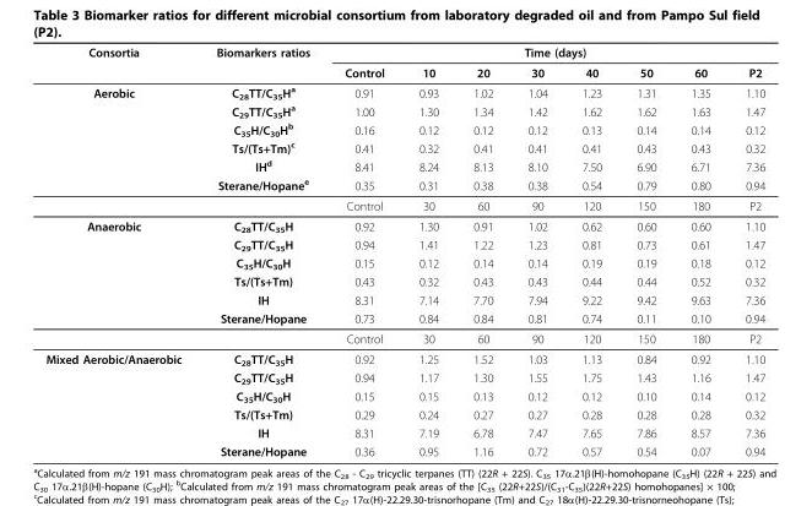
<table><thead><tr><td rowspan="2">Consortia</td><td rowspan="2">Biomarkers ratios</td><td colspan="8">Time (days)</td></tr><tr><td>Control</td><td>10</td><td>20</td><td>30</td><td>40</td><td>50</td><td>60</td><td>P2</td></tr></thead><tbody><tr><td rowspan="7">Aerobic</td><td>C<sub>28</sub>TT/C<sub>35</sub>H<sup>a</sup></td><td>0.91</td><td>0.93</td><td>1.02</td><td>1.04</td><td>1.23</td><td>1.31</td><td>1.35</td><td>1.10</td></tr><tr><td>C<sub>29</sub>TT/C<sub>35</sub>H<sup>a</sup></td><td>1.00</td><td>1.30</td><td>1.34</td><td>1.42</td><td>1.62</td><td>1.62</td><td>1.63</td><td>1.47</td></tr><tr><td>C<sub>35</sub>H/C<sub>30</sub>H<sup>b</sup></td><td>0.16</td><td>0.12</td><td>0.12</td><td>0.12</td><td>0.13</td><td>0.14</td><td>0.14</td><td>0.12</td></tr><tr><td>Ts/(Ts+Tm)<sup>c</sup></td><td>0.41</td><td>0.32</td><td>0.41</td><td>0.41</td><td>0.41</td><td>0.43</td><td>0.43</td><td>0.32</td></tr><tr><td>IH<sup>d</sup></td><td>8.41</td><td>8.24</td><td>8.13</td><td>8.10</td><td>7.50</td><td>6.90</td><td>6.71</td><td>7.36</td></tr><tr><td>Sterane/Hopane<sup>e</sup></td><td>0.35</td><td>0.31</td><td>0.38</td><td>0.38</td><td>0.54</td><td>0.79</td><td>0.80</td><td>0.94</td></tr><tr><td></td><td>Control</td><td>30</td><td>60</td><td>90</td><td>120</td><td>150</td><td>180</td><td>P2</td></tr><tr><td rowspan="7">Anaerobic</td><td>C<sub>28</sub>TT/C<sub>35</sub>H</td><td>0.92</td><td>1.30</td><td>0.91</td><td>1.02</td><td>0.62</td><td>0.60</td><td>0.60</td><td>1.10</td></tr><tr><td>C<sub>29</sub>TT/C<sub>35</sub>H</td><td>0.94</td><td>1.41</td><td>1.22</td><td>1.23</td><td>0.81</td><td>0.73</td><td>0.61</td><td>1.47</td></tr><tr><td>C<sub>35</sub>H/C<sub>30</sub>H</td><td>0.15</td><td>0.12</td><td>0.14</td><td>0.14</td><td>0.19</td><td>0.19</td><td>0.18</td><td>0.12</td></tr><tr><td>Ts/(Ts+Tm)</td><td>0.43</td><td>0.32</td><td>0.43</td><td>0.43</td><td>0.44</td><td>0.44</td><td>0.52</td><td>0.32</td></tr><tr><td>IH</td><td>8.31</td><td>7.14</td><td>7.70</td><td>7.94</td><td>9.22</td><td>9.42</td><td>9.63</td><td>7.36</td></tr><tr><td>Sterane/Hopane</td><td>0.73</td><td>0.84</td><td>0.84</td><td>0.81</td><td>0.74</td><td>0.11</td><td>0.10</td><td>0.94</td></tr><tr><td></td><td>Control</td><td>30</td><td>60</td><td>90</td><td>120</td><td>150</td><td>180</td><td>P2</td></tr><tr><td rowspan="6">Mixed Aerobic/Anaerobic</td><td>C<sub>28</sub>TT/C<sub>35</sub>H</td><td>0.92</td><td>1.25</td><td>1.52</td><td>1.03</td><td>1.13</td><td>0.84</td><td>0.92</td><td>1.10</td></tr><tr><td>C<sub>29</sub>TT/C<sub>35</sub>H</td><td>0.94</td><td>1.17</td><td>1.30</td><td>1.55</td><td>1.75</td><td>1.43</td><td>1.16</td><td>1.47</td></tr><tr><td>C<sub>35</sub>H/C<sub>30</sub>H</td><td>0.15</td><td>0.15</td><td>0.13</td><td>0.12</td><td>0.12</td><td>0.10</td><td>0.14</td><td>0.12</td></tr><tr><td>Ts/(Ts+Tm)</td><td>0.29</td><td>0.24</td><td>0.27</td><td>0.27</td><td>0.28</td><td>0.28</td><td>0.28</td><td>0.32</td></tr><tr><td>IH</td><td>8.31</td><td>7.19</td><td>6.78</td><td>7.47</td><td>7.65</td><td>7.86</td><td>8.57</td><td>7.36</td></tr><tr><td>Sterane/Hopane</td><td>0.36</td><td>0.95</td><td>1.16</td><td>0.72</td><td>0.57</td><td>0.54</td><td>0.07</td><td>0.94</td></tr></tbody></table>